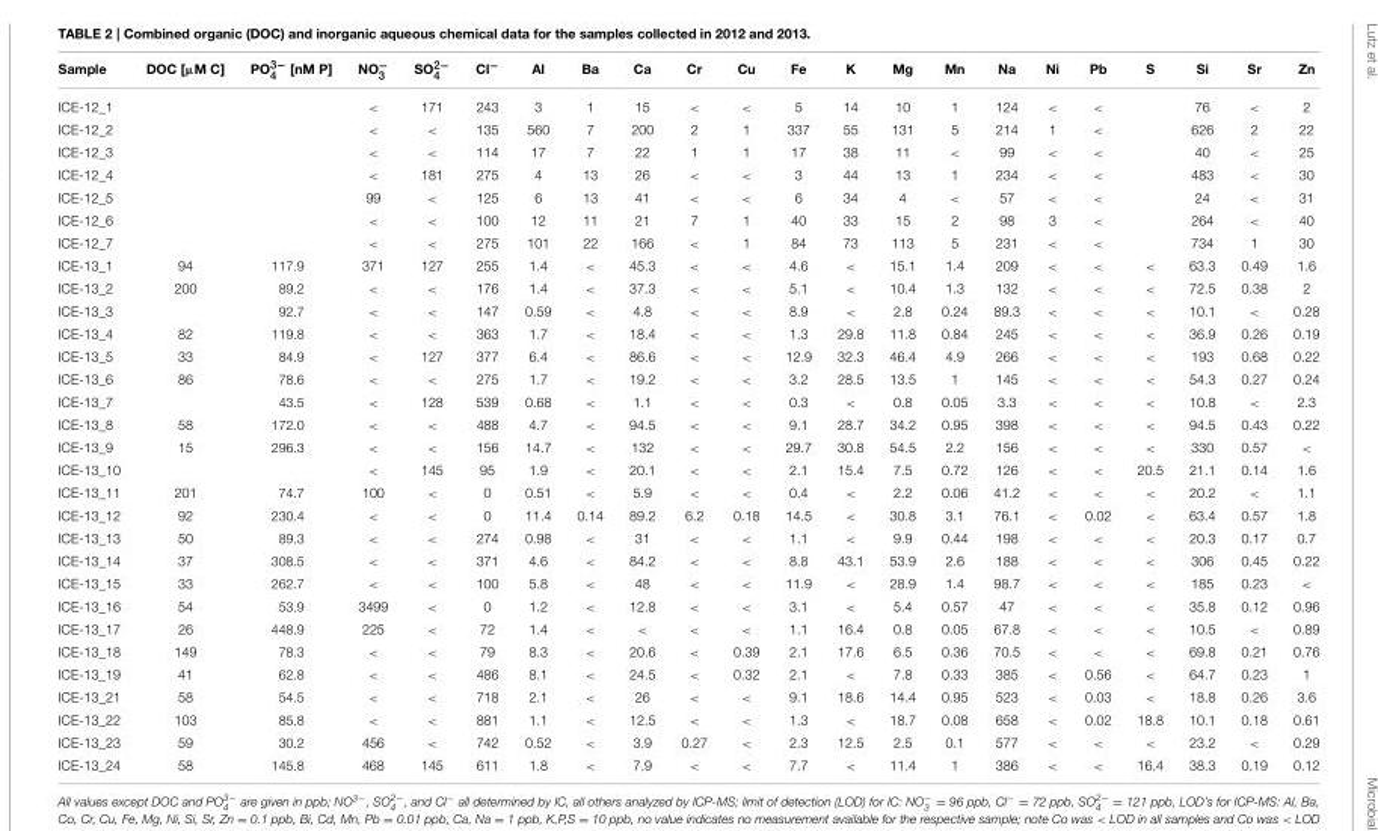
<table><thead><tr><td>Sample</td><td>DOC [μM C]</td><td>PO<sup>3−</sup> <sub>4</sub> [nM P]</td><td>NO<sup>−</sup> <sub>3</sub></td><td>SO<sup>2−</sup> <sub>4</sub></td><td>Cl<sup>−</sup></td><td>Al</td><td>Ba</td><td>Ca</td><td>Cr</td><td>Cu</td><td>Fe</td><td>K</td><td>Mg</td><td>Mn</td><td>Na</td><td>Ni</td><td>Pb</td><td>S</td><td>Si</td><td>Sr</td><td>Zn</td></tr></thead><tbody><tr><td>ICE-12_1</td><td></td><td></td><td>&lt;</td><td>171</td><td>243</td><td>3</td><td>1</td><td>15</td><td>&lt;</td><td>&lt;</td><td>5</td><td>14</td><td>10</td><td>1</td><td>124</td><td>&lt;</td><td>&lt;</td><td></td><td>76</td><td>&lt;</td><td>2</td></tr><tr><td>ICE-12_2</td><td></td><td></td><td>&lt;</td><td>&lt;</td><td>135</td><td>560</td><td>7</td><td>200</td><td>2</td><td>1</td><td>337</td><td>55</td><td>131</td><td>5</td><td>214</td><td>1</td><td>&lt;</td><td></td><td>626</td><td>2</td><td>22</td></tr><tr><td>ICE-12_3</td><td></td><td></td><td>&lt;</td><td>&lt;</td><td>114</td><td>17</td><td>7</td><td>22</td><td>1</td><td>1</td><td>17</td><td>38</td><td>11</td><td>&lt;</td><td>99</td><td>&lt;</td><td>&lt;</td><td></td><td>40</td><td>&lt;</td><td>25</td></tr><tr><td>ICE-12_4</td><td></td><td></td><td>&lt;</td><td>181</td><td>275</td><td>4</td><td>13</td><td>26</td><td>&lt;</td><td>&lt;</td><td>3</td><td>44</td><td>13</td><td>1</td><td>234</td><td>&lt;</td><td>&lt;</td><td></td><td>483</td><td>&lt;</td><td>30</td></tr><tr><td>ICE-12_5</td><td></td><td></td><td>99</td><td>&lt;</td><td>125</td><td>6</td><td>13</td><td>41</td><td>&lt;</td><td>&lt;</td><td>6</td><td>34</td><td>4</td><td>&lt;</td><td>57</td><td>&lt;</td><td>&lt;</td><td></td><td>24</td><td>&lt;</td><td>31</td></tr><tr><td>ICE-12_6</td><td></td><td></td><td>&lt;</td><td>&lt;</td><td>100</td><td>12</td><td>11</td><td>21</td><td>7</td><td>1</td><td>40</td><td>33</td><td>15</td><td>2</td><td>98</td><td>3</td><td>&lt;</td><td></td><td>264</td><td>&lt;</td><td>40</td></tr><tr><td>ICE-12_7</td><td></td><td></td><td>&lt;</td><td>&lt;</td><td>275</td><td>101</td><td>22</td><td>166</td><td>&lt;</td><td>1</td><td>84</td><td>73</td><td>113</td><td>5</td><td>231</td><td>&lt;</td><td>&lt;</td><td></td><td>734</td><td>1</td><td>30</td></tr><tr><td>ICE-13_1</td><td>94</td><td>117.9</td><td>371</td><td>127</td><td>255</td><td>1.4</td><td>&lt;</td><td>45.3</td><td>&lt;</td><td>&lt;</td><td>4.6</td><td>&lt;</td><td>15.1</td><td>1.4</td><td>209</td><td>&lt;</td><td>&lt;</td><td>&lt;</td><td>63.3</td><td>0.49</td><td>1.6</td></tr><tr><td>ICE-13_2</td><td>200</td><td>89.2</td><td>&lt;</td><td>&lt;</td><td>176</td><td>1.4</td><td>&lt;</td><td>37.3</td><td>&lt;</td><td>&lt;</td><td>5.1</td><td>&lt;</td><td>10.4</td><td>1.3</td><td>132</td><td>&lt;</td><td>&lt;</td><td>&lt;</td><td>72.5</td><td>0.38</td><td>2</td></tr><tr><td>ICE-13_3</td><td></td><td>92.7</td><td>&lt;</td><td>&lt;</td><td>147</td><td>0.59</td><td>&lt;</td><td>4.8</td><td>&lt;</td><td>&lt;</td><td>8.9</td><td>&lt;</td><td>2.8</td><td>0.24</td><td>89.3</td><td>&lt;</td><td>&lt;</td><td>&lt;</td><td>10.1</td><td>&lt;</td><td>0.28</td></tr><tr><td>ICE-13_4</td><td>82</td><td>119.8</td><td>&lt;</td><td>&lt;</td><td>363</td><td>1.7</td><td>&lt;</td><td>18.4</td><td>&lt;</td><td>&lt;</td><td>1.3</td><td>29.8</td><td>11.8</td><td>0.84</td><td>245</td><td>&lt;</td><td>&lt;</td><td>&lt;</td><td>36.9</td><td>0.26</td><td>0.19</td></tr><tr><td>ICE-13_5</td><td>33</td><td>84.9</td><td>&lt;</td><td>127</td><td>377</td><td>6.4</td><td>&lt;</td><td>86.6</td><td>&lt;</td><td>&lt;</td><td>12.9</td><td>32.3</td><td>46.4</td><td>4.9</td><td>266</td><td>&lt;</td><td>&lt;</td><td>&lt;</td><td>193</td><td>0.68</td><td>0.22</td></tr><tr><td>ICE-13_6</td><td>86</td><td>78.6</td><td>&lt;</td><td>&lt;</td><td>275</td><td>1.7</td><td>&lt;</td><td>19.2</td><td>&lt;</td><td>&lt;</td><td>3.2</td><td>28.5</td><td>13.5</td><td>1</td><td>145</td><td>&lt;</td><td>&lt;</td><td>&lt;</td><td>54.3</td><td>0.27</td><td>0.24</td></tr><tr><td>ICE-13_7</td><td></td><td>43.5</td><td>&lt;</td><td>128</td><td>539</td><td>0.68</td><td>&lt;</td><td>1.1</td><td>&lt;</td><td>&lt;</td><td>0.3</td><td>&lt;</td><td>0.8</td><td>0.05</td><td>3.3</td><td>&lt;</td><td>&lt;</td><td>&lt;</td><td>10.8</td><td>&lt;</td><td>2.3</td></tr><tr><td>ICE-13_8</td><td>58</td><td>172.0</td><td>&lt;</td><td>&lt;</td><td>488</td><td>4.7</td><td>&lt;</td><td>94.5</td><td>&lt;</td><td>&lt;</td><td>9.1</td><td>28.7</td><td>34.2</td><td>0.95</td><td>398</td><td>&lt;</td><td>&lt;</td><td>&lt;</td><td>94.5</td><td>0.43</td><td>0.22</td></tr><tr><td>ICE-13_9</td><td>15</td><td>296.3</td><td>&lt;</td><td>&lt;</td><td>156</td><td>14.7</td><td>&lt;</td><td>132</td><td>&lt;</td><td>&lt;</td><td>29.7</td><td>30.8</td><td>54.5</td><td>2.2</td><td>156</td><td>&lt;</td><td>&lt;</td><td>&lt;</td><td>330</td><td>0.57</td><td>&lt;</td></tr><tr><td>ICE-13_10</td><td></td><td></td><td>&lt;</td><td>145</td><td>95</td><td>1.9</td><td>&lt;</td><td>20.1</td><td>&lt;</td><td>&lt;</td><td>2.1</td><td>15.4</td><td>7.5</td><td>0.72</td><td>126</td><td>&lt;</td><td>&lt;</td><td>20.5</td><td>21.1</td><td>0.14</td><td>1.6</td></tr><tr><td>ICE-13_11</td><td>201</td><td>74.7</td><td>100</td><td>&lt;</td><td>0</td><td>0.51</td><td>&lt;</td><td>5.9</td><td>&lt;</td><td>&lt;</td><td>0.4</td><td>&lt;</td><td>2.2</td><td>0.06</td><td>41.2</td><td>&lt;</td><td>&lt;</td><td>&lt;</td><td>20.2</td><td>&lt;</td><td>1.1</td></tr><tr><td>ICE-13_12</td><td>92</td><td>230.4</td><td>&lt;</td><td>&lt;</td><td>0</td><td>11.4</td><td>0.14</td><td>89.2</td><td>6.2</td><td>0.18</td><td>14.5</td><td>&lt;</td><td>30.8</td><td>3.1</td><td>76.1</td><td>&lt;</td><td>0.02</td><td>&lt;</td><td>63.4</td><td>0.57</td><td>1.8</td></tr><tr><td>ICE-13_13</td><td>50</td><td>89.3</td><td>&lt;</td><td>&lt;</td><td>274</td><td>0.98</td><td>&lt;</td><td>31</td><td>&lt;</td><td>&lt;</td><td>1.1</td><td>&lt;</td><td>9.9</td><td>0.44</td><td>198</td><td>&lt;</td><td>&lt;</td><td>&lt;</td><td>20.3</td><td>0.17</td><td>0.7</td></tr><tr><td>ICE-13_14</td><td>37</td><td>308.5</td><td>&lt;</td><td>&lt;</td><td>371</td><td>4.6</td><td>&lt;</td><td>84.2</td><td>&lt;</td><td>&lt;</td><td>8.8</td><td>43.1</td><td>53.9</td><td>2.6</td><td>188</td><td>&lt;</td><td>&lt;</td><td>&lt;</td><td>306</td><td>0.45</td><td>0.22</td></tr><tr><td>ICE-13_15</td><td>33</td><td>262.7</td><td>&lt;</td><td>&lt;</td><td>100</td><td>5.8</td><td>&lt;</td><td>48</td><td>&lt;</td><td>&lt;</td><td>11.9</td><td>&lt;</td><td>28.9</td><td>1.4</td><td>98.7</td><td>&lt;</td><td>&lt;</td><td>&lt;</td><td>185</td><td>0.23</td><td>&lt;</td></tr><tr><td>ICE-13_16</td><td>54</td><td>53.9</td><td>3499</td><td>&lt;</td><td>0</td><td>1.2</td><td>&lt;</td><td>12.8</td><td>&lt;</td><td>&lt;</td><td>3.1</td><td>&lt;</td><td>5.4</td><td>0.57</td><td>47</td><td>&lt;</td><td>&lt;</td><td>&lt;</td><td>35.8</td><td>0.12</td><td>0.96</td></tr><tr><td>ICE-13_17</td><td>26</td><td>448.9</td><td>225</td><td>&lt;</td><td>72</td><td>1.4</td><td>&lt;</td><td>&lt;</td><td>&lt;</td><td>&lt;</td><td>1.1</td><td>16.4</td><td>0.8</td><td>0.05</td><td>67.8</td><td>&lt;</td><td>&lt;</td><td>&lt;</td><td>10.5</td><td>&lt;</td><td>0.89</td></tr><tr><td>ICE-13_18</td><td>149</td><td>78.3</td><td>&lt;</td><td>&lt;</td><td>79</td><td>8.3</td><td>&lt;</td><td>20.6</td><td>&lt;</td><td>0.39</td><td>2.1</td><td>17.6</td><td>6.5</td><td>0.36</td><td>70.5</td><td>&lt;</td><td>&lt;</td><td>&lt;</td><td>69.8</td><td>0.21</td><td>0.76</td></tr><tr><td>ICE-13_19</td><td>41</td><td>62.8</td><td>&lt;</td><td>&lt;</td><td>486</td><td>8.1</td><td>&lt;</td><td>24.5</td><td>&lt;</td><td>0.32</td><td>2.1</td><td>&lt;</td><td>7.8</td><td>0.33</td><td>385</td><td>&lt;</td><td>0.56</td><td>&lt;</td><td>64.7</td><td>0.23</td><td>1</td></tr><tr><td>ICE-13_21</td><td>58</td><td>54.5</td><td>&lt;</td><td>&lt;</td><td>718</td><td>2.1</td><td>&lt;</td><td>26</td><td>&lt;</td><td>&lt;</td><td>9.1</td><td>18.6</td><td>14.4</td><td>0.95</td><td>523</td><td>&lt;</td><td>0.03</td><td>&lt;</td><td>18.8</td><td>0.26</td><td>3.6</td></tr><tr><td>ICE-13_22</td><td>103</td><td>85.8</td><td>&lt;</td><td>&lt;</td><td>881</td><td>1.1</td><td>&lt;</td><td>12.5</td><td>&lt;</td><td>&lt;</td><td>1.3</td><td>&lt;</td><td>18.7</td><td>0.08</td><td>658</td><td>&lt;</td><td>0.02</td><td>18.8</td><td>10.1</td><td>0.18</td><td>0.61</td></tr><tr><td>ICE-13_23</td><td>59</td><td>30.2</td><td>456</td><td>&lt;</td><td>742</td><td>0.52</td><td>&lt;</td><td>3.9</td><td>0.27</td><td>&lt;</td><td>2.3</td><td>12.5</td><td>2.5</td><td>0.1</td><td>577</td><td>&lt;</td><td>&lt;</td><td>&lt;</td><td>23.2</td><td>&lt;</td><td>0.29</td></tr><tr><td>ICE-13_24</td><td>58</td><td>145.8</td><td>468</td><td>145</td><td>611</td><td>1.8</td><td>&lt;</td><td>7.9</td><td>&lt;</td><td>&lt;</td><td>7.7</td><td>&lt;</td><td>11.4</td><td>1</td><td>386</td><td>&lt;</td><td>&lt;</td><td>16.4</td><td>38.3</td><td>0.19</td><td>0.12</td></tr></tbody></table>